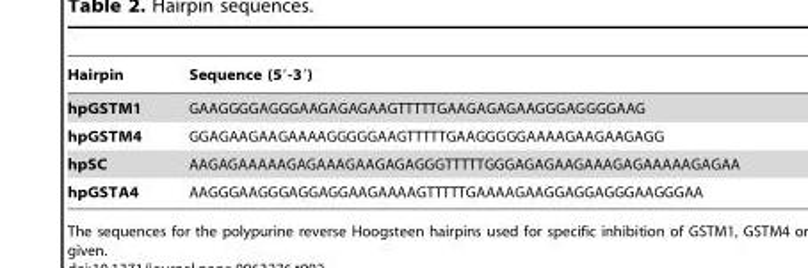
<table><thead><tr><td>Hairpin</td><td>Sequence (5′-3′)</td></tr></thead><tbody><tr><td>hpGSTM1</td><td>GAAGGGGAGGGAAGAGAGAAGTTTTTGAAGAGAGAAGGGAGGGGAAG</td></tr><tr><td>hpGSTM4</td><td>GGAGAAGAAGAAAAGGGGGAAGTTTTTGAAGGGGGAAAAGAAGAAGAGG</td></tr><tr><td>hpSC</td><td>AAGAGAAAAAGAGAAAGAAGAGAGGGTTTTTGGGAGAGAAGAAAGAGAAAAAGAGAA</td></tr><tr><td>hpGSTA4</td><td>AAGGGAAGGGAGGAGGAAGAAAAGTTTTTGAAAAGAAGGAGGAGGGAAGGGAA</td></tr></tbody></table>